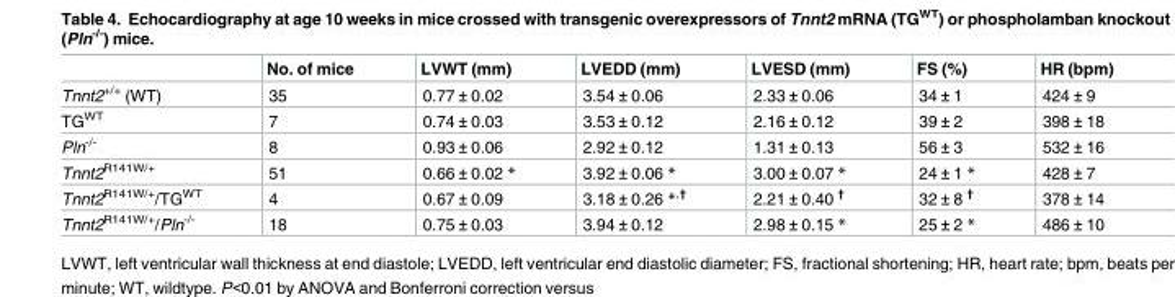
<table><thead><tr><td></td><td>No. of mice</td><td>LVWT (mm)</td><td>LVEDD (mm)</td><td>LVESD (mm)</td><td>FS (%)</td><td>HR (bpm)</td></tr></thead><tbody><tr><td>Tnnt2<sup>+/+</sup> (WT)</td><td>35</td><td>0.77 ± 0.02</td><td>3.54 ± 0.06</td><td>2.33 ± 0.06</td><td>34 ± 1</td><td>424 ± 9</td></tr><tr><td>TG<sup>WT</sup></td><td>7</td><td>0.74 ± 0.03</td><td>3.53 ± 0.12</td><td>2.16 ± 0.12</td><td>39 ± 2</td><td>398 ± 18</td></tr><tr><td>Pln<sup>-/-</sup></td><td>8</td><td>0.93 ± 0.06</td><td>2.92 ± 0.12</td><td>1.31 ± 0.13</td><td>56 ± 3</td><td>532 ± 16</td></tr><tr><td>Tnnt2<sup>R141W/+</sup></td><td>51</td><td>0.66 ± 0.02 *</td><td>3.92 ± 0.06 *</td><td>3.00 ± 0.07 *</td><td>24 ± 1 *</td><td>428 ± 7</td></tr><tr><td>Tnnt2<sup>R141W/+</sup>/TG<sup>WT</sup></td><td>4</td><td>0.67 ± 0.09</td><td>3.18 ± 0.26 *<sup>,†</sup></td><td>2.21 ± 0.40 <sup>†</sup></td><td>32 ± 8 <sup>†</sup></td><td>378 ± 14</td></tr><tr><td>Tnnt2<sup>R141W/+</sup>/Pln<sup>-/-</sup></td><td>18</td><td>0.75 ± 0.03</td><td>3.94 ± 0.12</td><td>2.98 ± 0.15 *</td><td>25 ± 2 *</td><td>486 ± 10</td></tr></tbody></table>